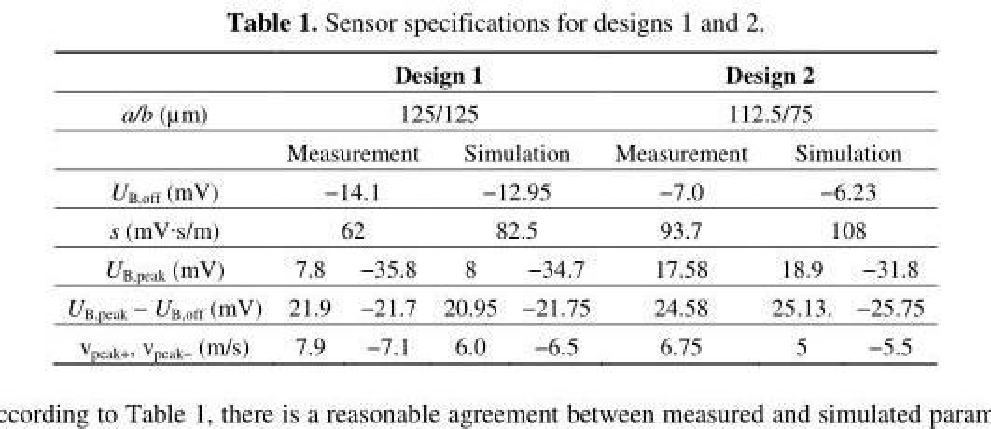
<table><thead><tr><td></td><td colspan="4">Design 1</td><td colspan="3">Design 2</td></tr></thead><tbody><tr><td rowspan="2">a/b (µm)</td><td colspan="4">125/125</td><td colspan="3">112.5/75</td></tr><tr><td colspan="2">Measurement</td><td colspan="2">Simulation</td><td>Measurement</td><td colspan="2">Simulation</td></tr><tr><td>U<sub>B,off</sub> (mV)</td><td colspan="2">−14.1</td><td colspan="2">−12.95</td><td>−7.0</td><td colspan="2">−6.23</td></tr><tr><td>s (mV·s/m)</td><td colspan="2">62</td><td colspan="2">82.5</td><td>93.7</td><td colspan="2">108</td></tr><tr><td>U<sub>B,peak</sub> (mV)</td><td>7.8</td><td>−35.8</td><td>8</td><td>−34.7</td><td>17.58</td><td>18.9</td><td>−31.8</td></tr><tr><td>U<sub>B,peak</sub> − U<sub>B,off</sub> (mV)</td><td>21.9</td><td>−21.7</td><td>20.95</td><td>−21.75</td><td>24.58</td><td>25.13.</td><td>−25.75</td></tr><tr><td>v<sub>peak+</sub>, v<sub>peak−</sub> (m/s)</td><td>7.9</td><td>−7.1</td><td>6.0</td><td>−6.5</td><td>6.75</td><td>5</td><td>−5.5</td></tr></tbody></table>